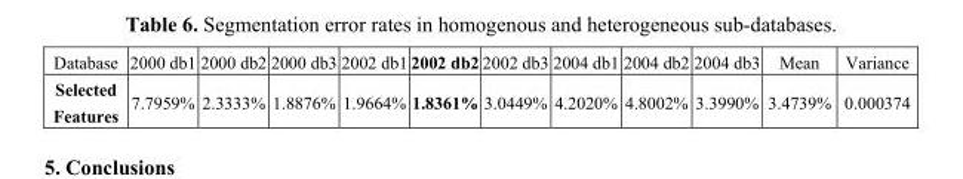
<table><thead><tr><td>Database</td><td>2000 db1</td><td>2000 db2</td><td>2000 db3</td><td>2002 db1</td><td>2002 db2</td><td>2002 db3</td><td>2004 db1</td><td>2004 db2</td><td>2004 db3</td><td>Mean</td><td>Variance</td></tr></thead><tbody><tr><td>Selected Features</td><td>7.7959%</td><td>2.3333%</td><td>1.8876%</td><td>1.9664%</td><td>1.8361%</td><td>3.0449%</td><td>4.2020%</td><td>4.8002%</td><td>3.3990%</td><td>3.4739%</td><td>0.000374</td></tr></tbody></table>